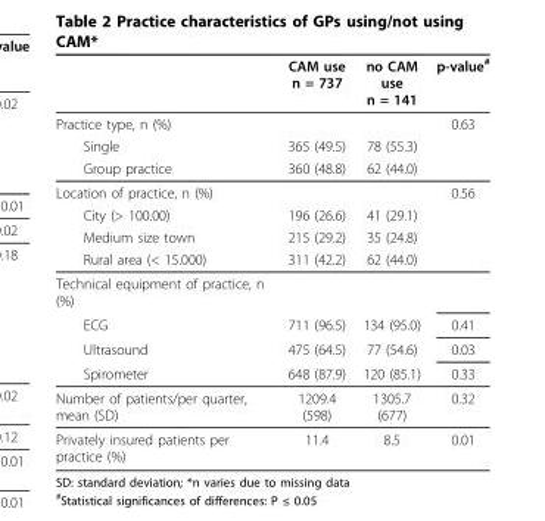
<table><thead><tr><td></td><td>CAM use n = 737</td><td>no CAM use n = 141</td><td>p-value<sup>#</sup></td></tr></thead><tbody><tr><td>Practice type, n (%)</td><td></td><td></td><td>0.63</td></tr><tr><td>Single</td><td>365 (49.5)</td><td>78 (55.3)</td><td></td></tr><tr><td>Group practice</td><td>360 (48.8)</td><td>62 (44.0)</td><td></td></tr><tr><td>Location of practice, n (%)</td><td></td><td></td><td>0.56</td></tr><tr><td>City (&gt; 100.00)</td><td>196 (26.6)</td><td>41 (29.1)</td><td></td></tr><tr><td>Medium size town</td><td>215 (29.2)</td><td>35 (24.8)</td><td></td></tr><tr><td>Rural area (&lt; 15.000)</td><td>311 (42.2)</td><td>62 (44.0)</td><td></td></tr><tr><td colspan="4">Technical equipment of practice, n (%)</td></tr><tr><td>ECG</td><td>711 (96.5)</td><td>134 (95.0)</td><td>0.41</td></tr><tr><td>Ultrasound</td><td>475 (64.5)</td><td>77 (54.6)</td><td>0.03</td></tr><tr><td>Spirometer</td><td>648 (87.9)</td><td>120 (85.1)</td><td>0.33</td></tr><tr><td>Number of patients/per quarter, mean (SD)</td><td>1209.4 (598)</td><td>1305.7 (677)</td><td>0.32</td></tr><tr><td>Privately insured patients per practice (%)</td><td>11.4</td><td>8.5</td><td>0.01</td></tr></tbody></table>